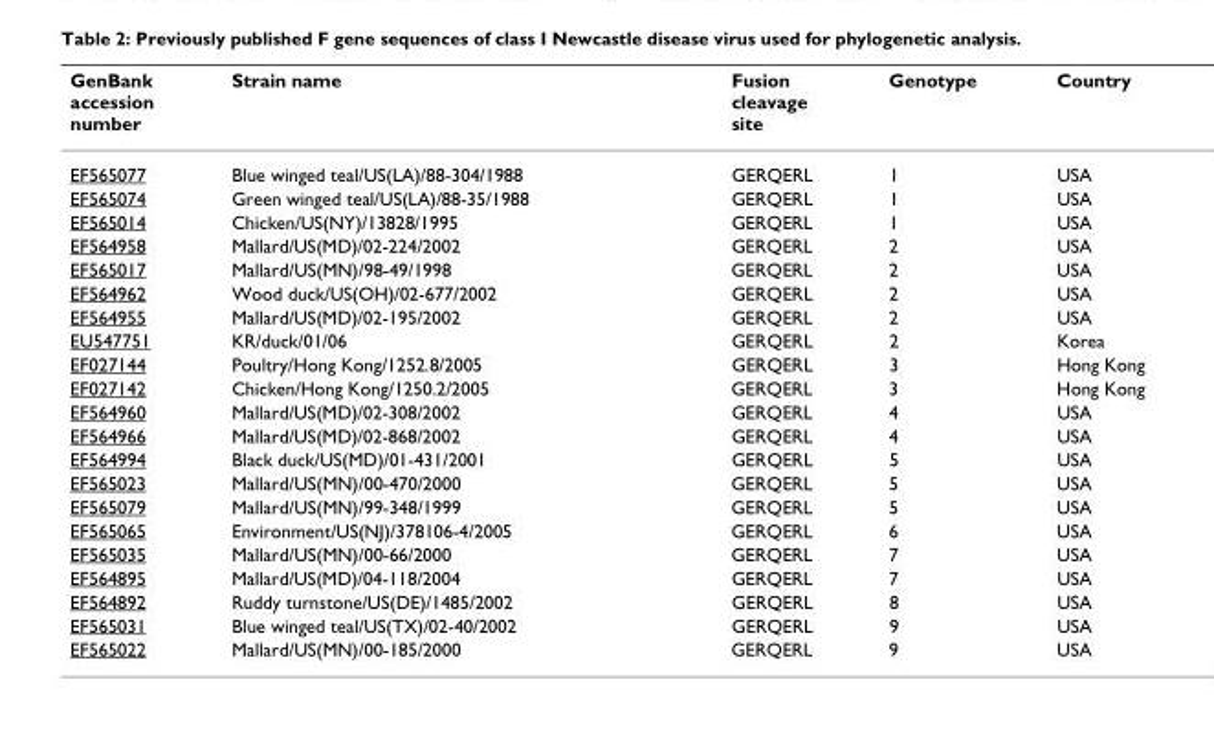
<table><thead><tr><td>GenBank accession number</td><td>Strain name</td><td>Fusion cleavage site</td><td>Genotype</td><td>Country</td></tr></thead><tbody><tr><td>EF565077</td><td>Blue winged teal/US(LA)/88-304/1988</td><td>GERQERL</td><td>1</td><td>USA</td></tr><tr><td>EF565074</td><td>Green winged teal/US(LA)/88-35/1988</td><td>GERQERL</td><td>1</td><td>USA</td></tr><tr><td>EF565014</td><td>Chicken/US(NY)/13828/1995</td><td>GERQERL</td><td>1</td><td>USA</td></tr><tr><td>EF564958</td><td>Mallard/US(MD)/02-224/2002</td><td>GERQERL</td><td>2</td><td>USA</td></tr><tr><td>EF565017</td><td>Mallard/US(MN)/98-49/1998</td><td>GERQERL</td><td>2</td><td>USA</td></tr><tr><td>EF564962</td><td>Wood duck/US(OH)/02-677/2002</td><td>GERQERL</td><td>2</td><td>USA</td></tr><tr><td>EF564955</td><td>Mallard/US(MD)/02-195/2002</td><td>GERQERL</td><td>2</td><td>USA</td></tr><tr><td>EU547751</td><td>KR/duck/01/06</td><td>GERQERL</td><td>2</td><td>Korea</td></tr><tr><td>EF027144</td><td>Poultry/Hong Kong/1252.8/2005</td><td>GERQERL</td><td>3</td><td>Hong Kong</td></tr><tr><td>EF027142</td><td>Chicken/Hong Kong/1250.2/2005</td><td>GERQERL</td><td>3</td><td>Hong Kong</td></tr><tr><td>EF564960</td><td>Mallard/US(MD)/02-308/2002</td><td>GERQERL</td><td>4</td><td>USA</td></tr><tr><td>EF564966</td><td>Mallard/US(MD)/02-868/2002</td><td>GERQERL</td><td>4</td><td>USA</td></tr><tr><td>EF564994</td><td>Black duck/US(MD)/01-431/2001</td><td>GERQERL</td><td>5</td><td>USA</td></tr><tr><td>EF565023</td><td>Mallard/US(MN)/00-470/2000</td><td>GERQERL</td><td>5</td><td>USA</td></tr><tr><td>EF565079</td><td>Mallard/US(MN)/99-348/1999</td><td>GERQERL</td><td>5</td><td>USA</td></tr><tr><td>EF565065</td><td>Environment/US(NJ)/378106-4/2005</td><td>GERQERL</td><td>6</td><td>USA</td></tr><tr><td>EF565035</td><td>Mallard/US(MN)/00-66/2000</td><td>GERQERL</td><td>7</td><td>USA</td></tr><tr><td>EF564895</td><td>Mallard/US(MD)/04-118/2004</td><td>GERQERL</td><td>7</td><td>USA</td></tr><tr><td>EF564892</td><td>Ruddy turnstone/US(DE)/1485/2002</td><td>GERQERL</td><td>8</td><td>USA</td></tr><tr><td>EF565031</td><td>Blue winged teal/US(TX)/02-40/2002</td><td>GERQERL</td><td>9</td><td>USA</td></tr><tr><td>EF565022</td><td>Mallard/US(MN)/00-185/2000</td><td>GERQERL</td><td>9</td><td>USA</td></tr></tbody></table>